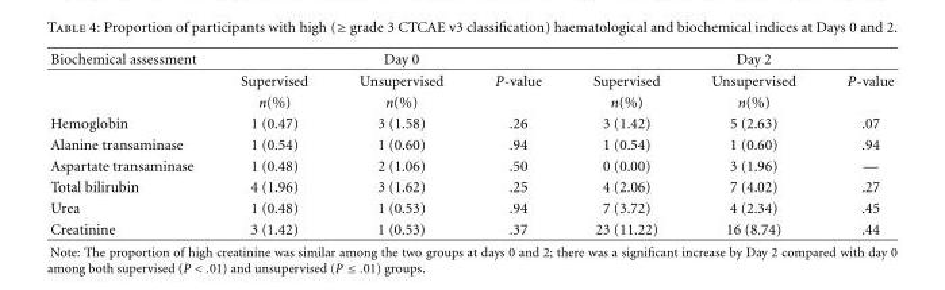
<table><thead><tr><td>Biochemical assessment</td><td></td><td>Day 0</td><td></td><td></td><td>Day 2</td><td></td></tr></thead><tbody><tr><td></td><td>Supervised</td><td>Unsupervised</td><td>P-value</td><td>Supervised</td><td>Unsupervised</td><td>P-value</td></tr><tr><td></td><td>n(%)</td><td>n(%)</td><td></td><td>n(%)</td><td>n(%)</td><td></td></tr><tr><td>Hemoglobin</td><td>1 (0.47)</td><td>3 (1.58)</td><td>.26</td><td>3 (1.42)</td><td>5 (2.63)</td><td>.07</td></tr><tr><td>Alanine transaminase</td><td>1 (0.54)</td><td>1 (0.60)</td><td>.94</td><td>1 (0.54)</td><td>1 (0.60)</td><td>.94</td></tr><tr><td>Aspartate transaminase</td><td>1 (0.48)</td><td>2 (1.06)</td><td>.50</td><td>0 (0.00)</td><td>3 (1.96)</td><td>—</td></tr><tr><td>Total bilirubin</td><td>4 (1.96)</td><td>3 (1.62)</td><td>.25</td><td>4 (2.06)</td><td>7 (4.02)</td><td>.27</td></tr><tr><td>Urea</td><td>1 (0.48)</td><td>1 (0.53)</td><td>.94</td><td>7 (3.72)</td><td>4 (2.34)</td><td>.45</td></tr><tr><td>Creatinine</td><td>3 (1.42)</td><td>1 (0.53)</td><td>.37</td><td>23 (11.22)</td><td>16 (8.74)</td><td>.44</td></tr></tbody></table>